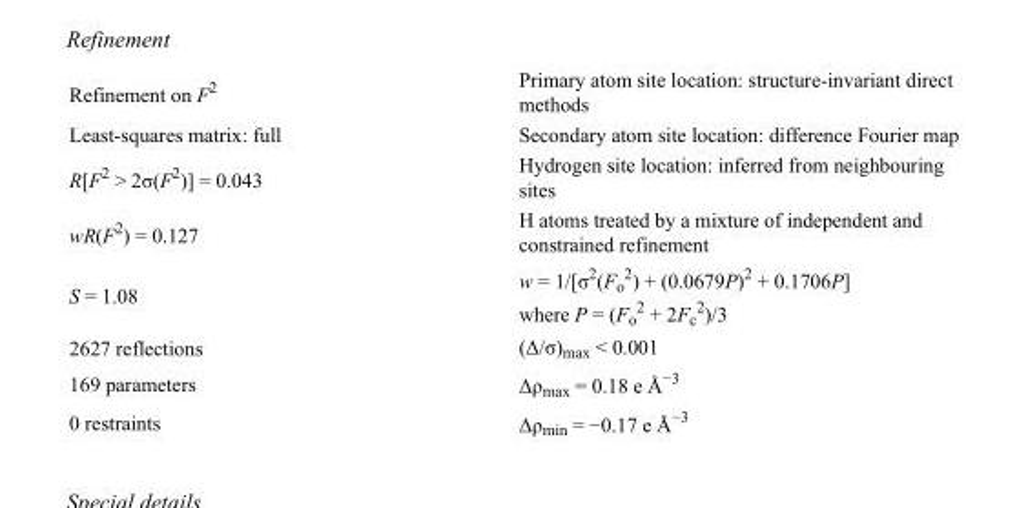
<table><tbody><tr><td>Refinement on F<sup>2</sup></td><td>Primary atom site location: structure-invariant direct methods</td></tr><tr><td>Least-squares matrix: full</td><td>Secondary atom site location: difference Fourier map</td></tr><tr><td>R[F<sup>2</sup> &gt; 2σ(F<sup>2</sup>)] = 0.043</td><td>Hydrogen site location: inferred from neighbouring sites</td></tr><tr><td>wR(F<sup>2</sup>) = 0.127</td><td>H atoms treated by a mixture of independent and constrained refinement</td></tr><tr><td>S = 1.08</td><td>w = 1/[σ<sup>2</sup>(F<sub>o</sub> <sup>2</sup>) + (0.0679P)<sup>2</sup> + 0.1706P] where P = (F<sub>o</sub> <sup>2</sup> + 2F<sub>c</sub> <sup>2</sup>)/3</td></tr><tr><td>2627 reflections</td><td>(Δ/σ)<sub>max</sub> &lt; 0.001</td></tr><tr><td>169 parameters</td><td>Δρ<sub>max</sub> = 0.18 e Å<sup>−3</sup></td></tr><tr><td>0 restraints</td><td>Δρ<sub>min</sub> = −0.17 e Å<sup>−3</sup></td></tr></tbody></table>